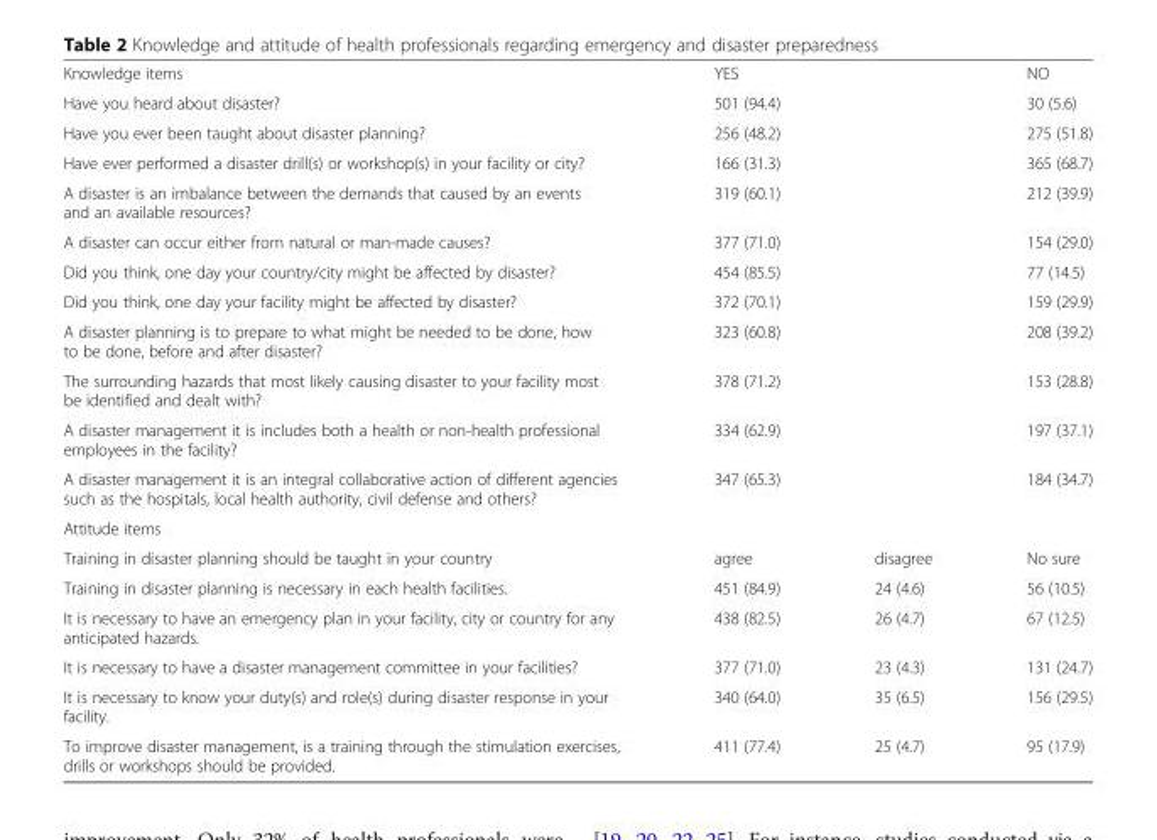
<table><tbody><tr><td>Knowledge items</td><td colspan="2">YES</td><td>NO</td></tr><tr><td>Have you heard about disaster?</td><td colspan="2">501 (94.4)</td><td>30 (5.6)</td></tr><tr><td>Have you ever been taught about disaster planning?</td><td colspan="2">256 (48.2)</td><td>275 (51.8)</td></tr><tr><td>Have ever performed a disaster drill(s) or workshop(s) in your facility or city?</td><td colspan="2">166 (31.3)</td><td>365 (68.7)</td></tr><tr><td>A disaster is an imbalance between the demands that caused by an events and an available resources?</td><td colspan="2">319 (60.1)</td><td>212 (39.9)</td></tr><tr><td>A disaster can occur either from natural or man-made causes?</td><td colspan="2">377 (71.0)</td><td>154 (29.0)</td></tr><tr><td>Did you think, one day your country/city might be affected by disaster?</td><td colspan="2">454 (85.5)</td><td>77 (14.5)</td></tr><tr><td>Did you think, one day your facility might be affected by disaster?</td><td colspan="2">372 (70.1)</td><td>159 (29.9)</td></tr><tr><td>A disaster planning is to prepare to what might be needed to be done, how to be done, before and after disaster?</td><td colspan="2">323 (60.8)</td><td>208 (39.2)</td></tr><tr><td>The surrounding hazards that most likely causing disaster to your facility most be identified and dealt with?</td><td colspan="2">378 (71.2)</td><td>153 (28.8)</td></tr><tr><td>A disaster management it is includes both a health or non-health professional employees in the facility?</td><td colspan="2">334 (62.9)</td><td>197 (37.1)</td></tr><tr><td>A disaster management it is an integral collaborative action of different agencies such as the hospitals, local health authority, civil defense and others?</td><td colspan="2">347 (65.3)</td><td>184 (34.7)</td></tr><tr><td colspan="4">Attitude items</td></tr><tr><td>Training in disaster planning should be taught in your country</td><td>agree</td><td>disagree</td><td>No sure</td></tr><tr><td>Training in disaster planning is necessary in each health facilities.</td><td>451 (84.9)</td><td>24 (4.6)</td><td>56 (10.5)</td></tr><tr><td>It is necessary to have an emergency plan in your facility, city or country for any anticipated hazards.</td><td>438 (82.5)</td><td>26 (4.7)</td><td>67 (12.5)</td></tr><tr><td>It is necessary to have a disaster management committee in your facilities?</td><td>377 (71.0)</td><td>23 (4.3)</td><td>131 (24.7)</td></tr><tr><td>It is necessary to know your duty(s) and role(s) during disaster response in your facility.</td><td>340 (64.0)</td><td>35 (6.5)</td><td>156 (29.5)</td></tr><tr><td>To improve disaster management, is a training through the stimulation exercises, drills or workshops should be provided.</td><td>411 (77.4)</td><td>25 (4.7)</td><td>95 (17.9)</td></tr></tbody></table>